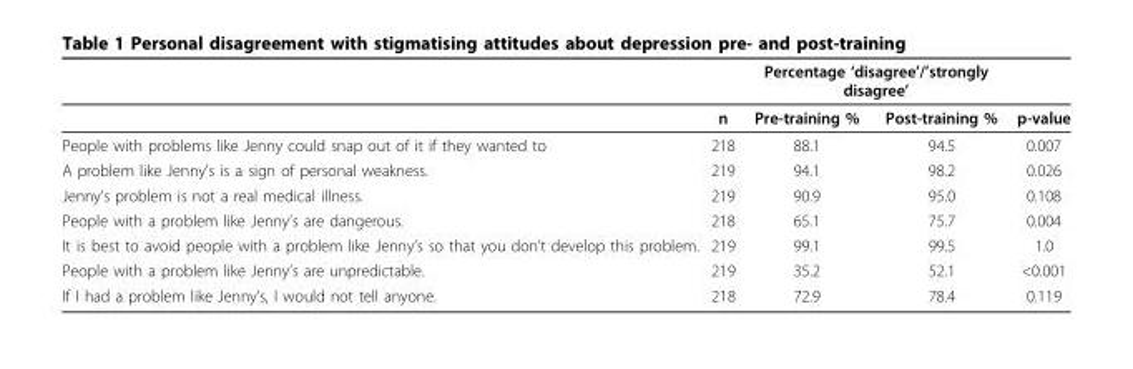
<table><thead><tr><td rowspan="2"></td><td rowspan="2">n</td><td colspan="2">Percentage ‘disagree’/’strongly disagree’</td><td rowspan="2">p-value</td></tr><tr><td>Pre-training %</td><td>Post-training %</td></tr></thead><tbody><tr><td>People with problems like Jenny could snap out of it if they wanted to</td><td>218</td><td>88.1</td><td>94.5</td><td>0.007</td></tr><tr><td>A problem like Jenny’s is a sign of personal weakness.</td><td>219</td><td>94.1</td><td>98.2</td><td>0.026</td></tr><tr><td>Jenny’s problem is not a real medical illness.</td><td>219</td><td>90.9</td><td>95.0</td><td>0.108</td></tr><tr><td>People with a problem like Jenny’s are dangerous.</td><td>218</td><td>65.1</td><td>75.7</td><td>0.004</td></tr><tr><td>It is best to avoid people with a problem like Jenny’s so that you don’t develop this problem.</td><td>219</td><td>99.1</td><td>99.5</td><td>1.0</td></tr><tr><td>People with a problem like Jenny’s are unpredictable.</td><td>219</td><td>35.2</td><td>52.1</td><td>&lt;0.001</td></tr><tr><td>If I had a problem like Jenny’s, I would not tell anyone.</td><td>218</td><td>72.9</td><td>78.4</td><td>0.119</td></tr></tbody></table>